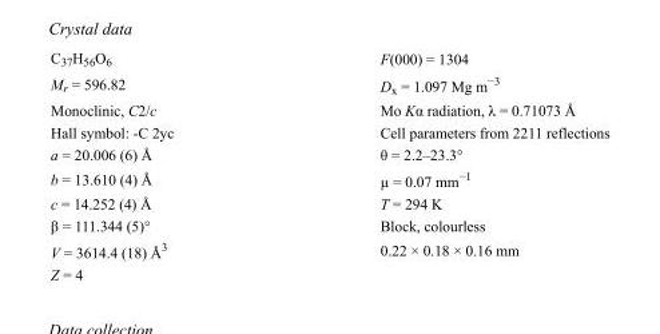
<table><tbody><tr><td>C<sub>37</sub>H<sub>56</sub>O<sub>6</sub></td><td>F(000) = 1304</td></tr><tr><td>M<sub>r</sub> = 596.82</td><td>D<sub>x</sub> = 1.097 Mg m<sup>−3</sup></td></tr><tr><td>Monoclinic, C2/c</td><td>Mo Kα radiation, λ = 0.71073 Å</td></tr><tr><td>Hall symbol: -C 2yc</td><td>Cell parameters from 2211 reflections</td></tr><tr><td>a = 20.006 (6) Å</td><td>θ = 2.2–23.3°</td></tr><tr><td>b = 13.610 (4) Å</td><td>µ = 0.07 mm<sup>−1</sup></td></tr><tr><td>c = 14.252 (4) Å</td><td>T = 294 K</td></tr><tr><td>β = 111.344 (5)°</td><td>Block, colourless</td></tr><tr><td>V = 3614.4 (18) Å<sup>3</sup></td><td>0.22 × 0.18 × 0.16 mm</td></tr><tr><td>Z = 4</td><td></td></tr></tbody></table>